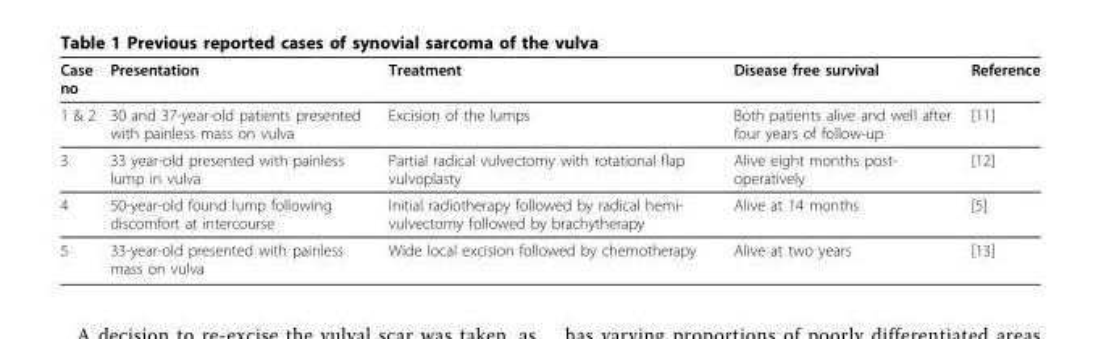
<table><thead><tr><td>Case no</td><td>Presentation</td><td>Treatment</td><td>Disease free survival</td><td>Reference</td></tr></thead><tbody><tr><td>1 &amp; 2</td><td>30 and 37-year-old patients presented with painless mass on vulva</td><td>Excision of the lumps</td><td>Both patients alive and well after four years of follow-up</td><td>[11]</td></tr><tr><td>3</td><td>33 year-old presented with painless lump in vulva</td><td>Partial radical vulvectomy with rotational flap vulvoplasty</td><td>Alive eight months post- operatively</td><td>[12]</td></tr><tr><td>4</td><td>50-year-old found lump following discomfort at intercourse</td><td>Initial radiotherapy followed by radical hemi- vulvectomy followed by brachytherapy</td><td>Alive at 14 months</td><td>[5]</td></tr><tr><td>5</td><td>33-year-old presented with painless mass on vulva</td><td>Wide local excision followed by chemotherapy</td><td>Alive at two years</td><td>[13]</td></tr></tbody></table>